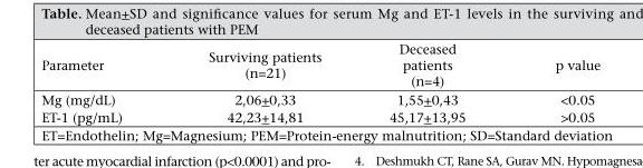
<table><thead><tr><td>Parameter</td><td>Surviving patients (n=21)</td><td>Deceased patients (n=4)</td><td>p value</td></tr></thead><tbody><tr><td>Mg (mg/dL)</td><td>2,06+0,33</td><td>1,55+0,43</td><td>&lt;0.05</td></tr><tr><td>ET-1 (pg/mL)</td><td>42,23+14,81</td><td>45,17+13,95</td><td>&gt;0.05</td></tr></tbody></table>